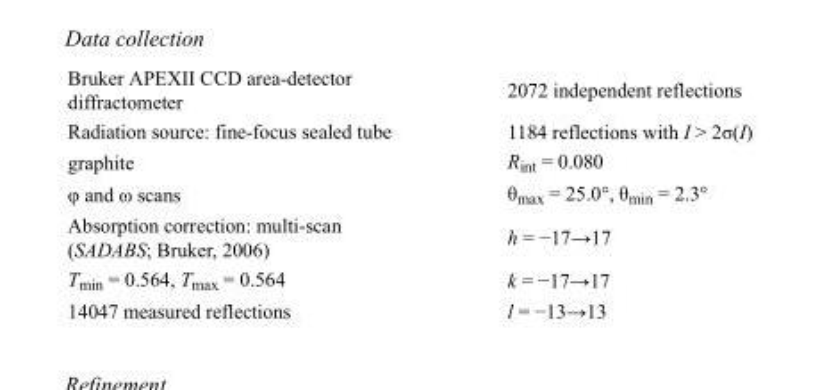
<table><tbody><tr><td>Bruker APEXII CCD area-detector diffractometer</td><td>2072 independent reflections</td></tr><tr><td>Radiation source: fine-focus sealed tube</td><td>1184 reflections with I &gt; 2σ(I)</td></tr><tr><td>graphite</td><td>R<sub>int</sub> = 0.080</td></tr><tr><td>φ and ω scans</td><td>θ<sub>max</sub> = 25.0°, θ<sub>min</sub> = 2.3°</td></tr><tr><td>Absorption correction: multi-scan (SADABS; Bruker, 2006)</td><td>h = −17→17</td></tr><tr><td>T<sub>min</sub> = 0.564, T<sub>max</sub> = 0.564</td><td>k = −17→17</td></tr><tr><td>14047 measured reflections</td><td>l = −13→13</td></tr></tbody></table>